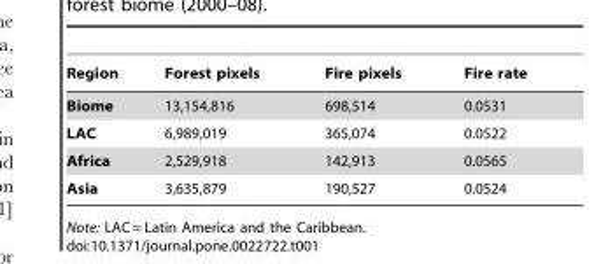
<table><thead><tr><td>Region</td><td>Forest pixels</td><td>Fire pixels</td><td>Fire rate</td></tr></thead><tbody><tr><td>Biome</td><td>13,154,816</td><td>698,514</td><td>0.0531</td></tr><tr><td>LAC</td><td>6,989,019</td><td>365,074</td><td>0.0522</td></tr><tr><td>Africa</td><td>2,529,918</td><td>142,913</td><td>0.0565</td></tr><tr><td>Asia</td><td>3,635,879</td><td>190,527</td><td>0.0524</td></tr></tbody></table>